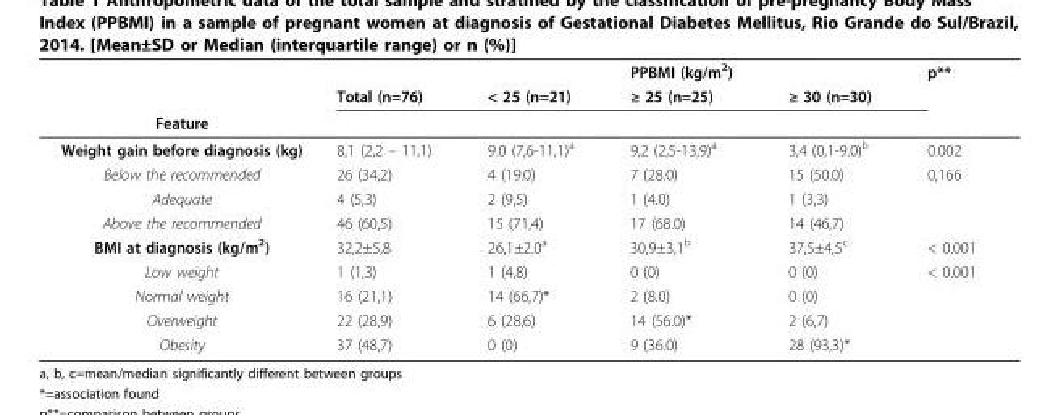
<table><thead><tr><td rowspan="3">Feature</td><td rowspan="3">Total (n=76)</td><td rowspan="3">&lt; 25 (n=21)</td><td rowspan="3">PPBMI (kg/m<sup>2</sup>) ≥ 25 (n=25)</td><td rowspan="3">≥ 30 (n=30)</td><td rowspan="3">p**</td></tr><tr></tr><tr></tr></thead><tbody><tr><td>Weight gain before diagnosis (kg)</td><td>8,1 (2,2 – 11,1)</td><td>9.0 (7,6-11,1)<sup>a</sup></td><td>9,2 (2,5-13,9)<sup>a</sup></td><td>3,4 (0,1-9.0)<sup>b</sup></td><td>0.002</td></tr><tr><td>Below the recommended</td><td>26 (34,2)</td><td>4 (19.0)</td><td>7 (28.0)</td><td>15 (50.0)</td><td>0,166</td></tr><tr><td>Adequate</td><td>4 (5,3)</td><td>2 (9,5)</td><td>1 (4.0)</td><td>1 (3,3)</td><td></td></tr><tr><td>Above the recommended</td><td>46 (60,5)</td><td>15 (71,4)</td><td>17 (68.0)</td><td>14 (46,7)</td><td></td></tr><tr><td>BMI at diagnosis (kg/m<sup>2</sup>)</td><td>32,2±5,8</td><td>26,1±2.0<sup>a</sup></td><td>30,9±3,1<sup>b</sup></td><td>37,5±4,5<sup>c</sup></td><td>&lt; 0.001</td></tr><tr><td>Low weight</td><td>1 (1,3)</td><td>1 (4,8)</td><td>0 (0)</td><td>0 (0)</td><td>&lt; 0.001</td></tr><tr><td>Normal weight</td><td>16 (21,1)</td><td>14 (66,7)*</td><td>2 (8.0)</td><td>0 (0)</td><td></td></tr><tr><td>Overweight</td><td>22 (28,9)</td><td>6 (28,6)</td><td>14 (56.0)*</td><td>2 (6,7)</td><td></td></tr><tr><td>Obesity</td><td>37 (48,7)</td><td>0 (0)</td><td>9 (36.0)</td><td>28 (93,3)*</td><td></td></tr></tbody></table>